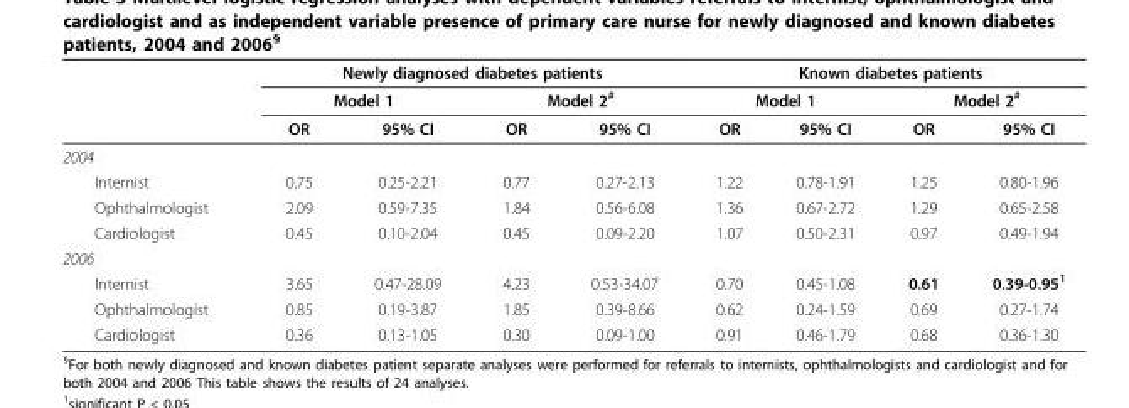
<table><thead><tr><td rowspan="3"></td><td colspan="4">Newly diagnosed diabetes patients</td><td colspan="4">Known diabetes patients</td></tr><tr><td colspan="2">Model 1</td><td colspan="2">Model 2<sup>#</sup></td><td colspan="2">Model 1</td><td colspan="2">Model 2<sup>#</sup></td></tr><tr><td>OR</td><td>95% CI</td><td>OR</td><td>95% CI</td><td>OR</td><td>95% CI</td><td>OR</td><td>95% CI</td></tr></thead><tbody><tr><td colspan="9">2004</td></tr><tr><td>Internist</td><td>0.75</td><td>0.25-2.21</td><td>0.77</td><td>0.27-2.13</td><td>1.22</td><td>0.78-1.91</td><td>1.25</td><td>0.80-1.96</td></tr><tr><td>Ophthalmologist</td><td>2.09</td><td>0.59-7.35</td><td>1.84</td><td>0.56-6.08</td><td>1.36</td><td>0.67-2.72</td><td>1.29</td><td>0.65-2.58</td></tr><tr><td>Cardiologist</td><td>0.45</td><td>0.10-2.04</td><td>0.45</td><td>0.09-2.20</td><td>1.07</td><td>0.50-2.31</td><td>0.97</td><td>0.49-1.94</td></tr><tr><td colspan="9">2006</td></tr><tr><td>Internist</td><td>3.65</td><td>0.47-28.09</td><td>4.23</td><td>0.53-34.07</td><td>0.70</td><td>0.45-1.08</td><td>0.61</td><td>0.39-0.95<sup>1</sup></td></tr><tr><td>Ophthalmologist</td><td>0.85</td><td>0.19-3.87</td><td>1.85</td><td>0.39-8.66</td><td>0.62</td><td>0.24-1.59</td><td>0.69</td><td>0.27-1.74</td></tr><tr><td>Cardiologist</td><td>0.36</td><td>0.13-1.05</td><td>0.30</td><td>0.09-1.00</td><td>0.91</td><td>0.46-1.79</td><td>0.68</td><td>0.36-1.30</td></tr></tbody></table>